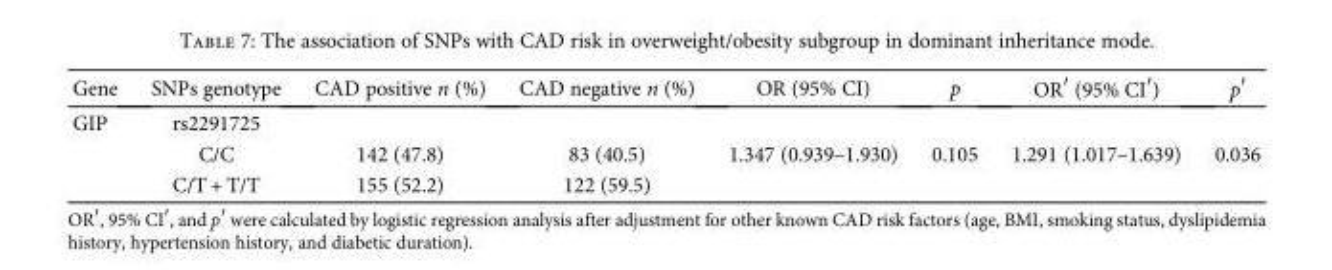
<table><thead><tr><td>Gene</td><td>SNPs genotype</td><td>CAD positive n (%)</td><td>CAD negative n (%)</td><td>OR (95% CI)</td><td>p</td><td>OR′ (95% CI′)</td><td>p′</td></tr></thead><tbody><tr><td rowspan="3">GIP</td><td>rs2291725</td><td></td><td></td><td></td><td></td><td></td><td></td></tr><tr><td>C/C</td><td>142 (47.8)</td><td>83 (40.5)</td><td>1.347 (0.939–1.930)</td><td>0.105</td><td>1.291 (1.017–1.639)</td><td>0.036</td></tr><tr><td>C/T + T/T</td><td>155 (52.2)</td><td>122 (59.5)</td><td></td><td></td><td></td><td></td></tr></tbody></table>